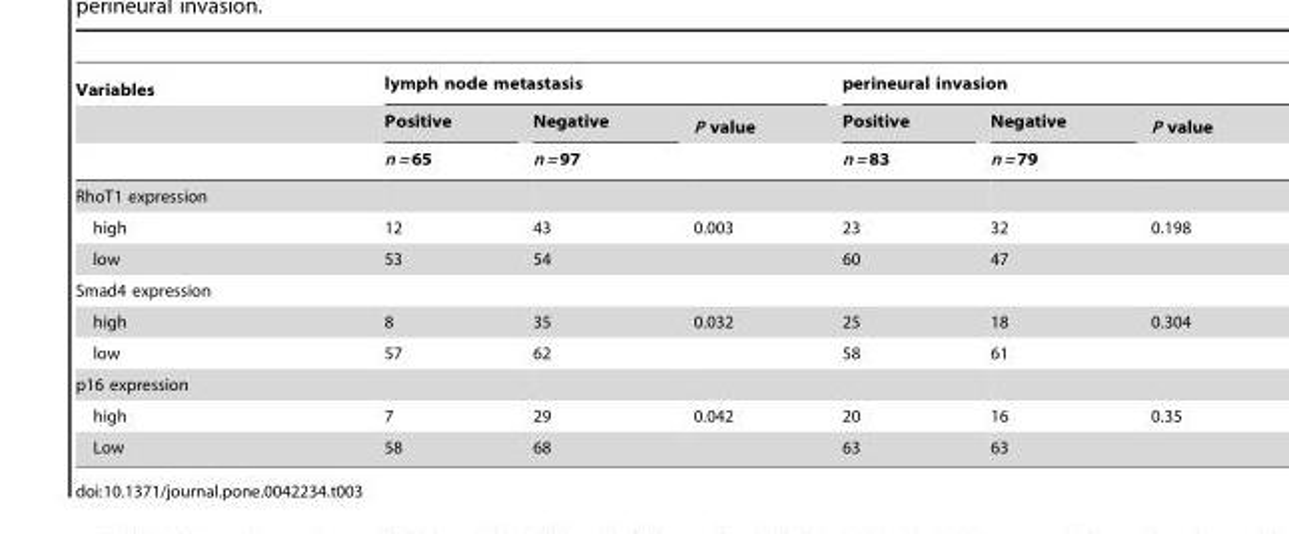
<table><thead><tr><td rowspan="3">Variables</td><td colspan="3">lymph node metastasis</td><td colspan="3">perineural invasion</td></tr><tr><td rowspan="2">Positive n = 65</td><td rowspan="2">Negative n = 97</td><td rowspan="2">P value</td><td rowspan="2">Positive n = 83</td><td rowspan="2">Negative n = 79</td><td rowspan="2">P value</td></tr><tr></tr></thead><tbody><tr><td colspan="7">RhoT1 expression</td></tr><tr><td>high</td><td>12</td><td>43</td><td>0.003</td><td>23</td><td>32</td><td>0.198</td></tr><tr><td>low</td><td>53</td><td>54</td><td></td><td>60</td><td>47</td><td></td></tr><tr><td colspan="7">Smad4 expression</td></tr><tr><td>high</td><td>8</td><td>35</td><td>0.032</td><td>25</td><td>18</td><td>0.304</td></tr><tr><td>low</td><td>57</td><td>62</td><td></td><td>58</td><td>61</td><td></td></tr><tr><td colspan="7">p16 expression</td></tr><tr><td>high</td><td>7</td><td>29</td><td>0.042</td><td>20</td><td>16</td><td>0.35</td></tr><tr><td>Low</td><td>58</td><td>68</td><td></td><td>63</td><td>63</td><td></td></tr></tbody></table>